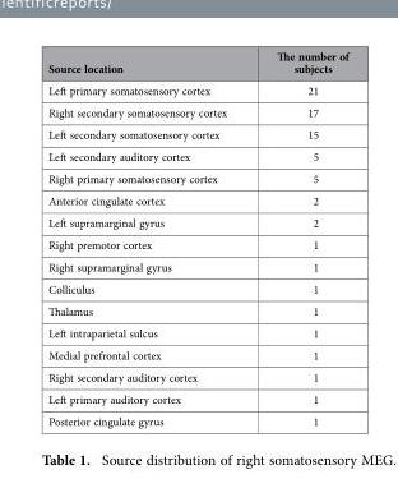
<table><thead><tr><td>Source location</td><td>The number of subjects</td></tr></thead><tbody><tr><td>Left primary somatosensory cortex</td><td>21</td></tr><tr><td>Right secondary somatosensory cortex</td><td>17</td></tr><tr><td>Left secondary somatosensory cortex</td><td>15</td></tr><tr><td>Left secondary auditory cortex</td><td>5</td></tr><tr><td>Right primary somatosensory cortex</td><td>5</td></tr><tr><td>Anterior cingulate cortex</td><td>2</td></tr><tr><td>Left supramarginal gyrus</td><td>2</td></tr><tr><td>Right premotor cortex</td><td>1</td></tr><tr><td>Right supramarginal gyrus</td><td>1</td></tr><tr><td>Colliculus</td><td>1</td></tr><tr><td>Thalamus</td><td>1</td></tr><tr><td>Left intraparietal sulcus</td><td>1</td></tr><tr><td>Medial prefrontal cortex</td><td>1</td></tr><tr><td>Right secondary auditory cortex</td><td>1</td></tr><tr><td>Left primary auditory cortex</td><td>1</td></tr><tr><td>Posterior cingulate gyrus</td><td>1</td></tr></tbody></table>